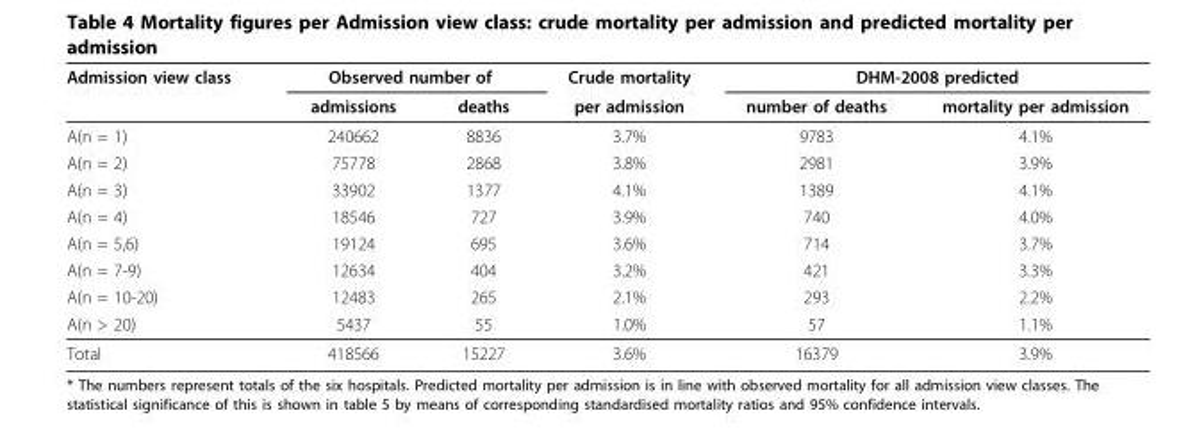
<table><thead><tr><td rowspan="2">Admission view class</td><td colspan="2">Observed number of</td><td rowspan="2">Crude mortality per admission</td><td colspan="2">DHM-2008 predicted</td></tr><tr><td>admissions</td><td>deaths</td><td>number of deaths</td><td>mortality per admission</td></tr></thead><tbody><tr><td>A(n = 1)</td><td>240662</td><td>8836</td><td>3.7%</td><td>9783</td><td>4.1%</td></tr><tr><td>A(n = 2)</td><td>75778</td><td>2868</td><td>3.8%</td><td>2981</td><td>3.9%</td></tr><tr><td>A(n = 3)</td><td>33902</td><td>1377</td><td>4.1%</td><td>1389</td><td>4.1%</td></tr><tr><td>A(n = 4)</td><td>18546</td><td>727</td><td>3.9%</td><td>740</td><td>4.0%</td></tr><tr><td>A(n = 5,6)</td><td>19124</td><td>695</td><td>3.6%</td><td>714</td><td>3.7%</td></tr><tr><td>A(n = 7-9)</td><td>12634</td><td>404</td><td>3.2%</td><td>421</td><td>3.3%</td></tr><tr><td>A(n = 10-20)</td><td>12483</td><td>265</td><td>2.1%</td><td>293</td><td>2.2%</td></tr><tr><td>A(n &gt; 20)</td><td>5437</td><td>55</td><td>1.0%</td><td>57</td><td>1.1%</td></tr><tr><td>Total</td><td>418566</td><td>15227</td><td>3.6%</td><td>16379</td><td>3.9%</td></tr></tbody></table>